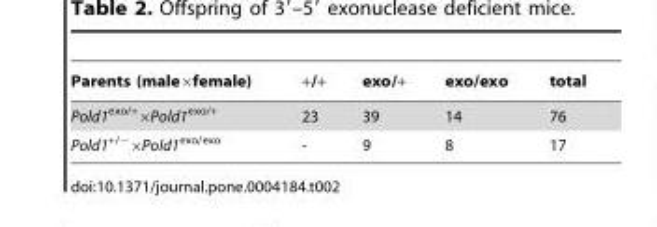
<table><thead><tr><td>Parents (male×female)</td><td>+/+</td><td>exo/+</td><td>exo/exo</td><td>total</td></tr></thead><tbody><tr><td>Pold1<sup>exo/+</sup>×Pold1<sup>exo/+</sup></td><td>23</td><td>39</td><td>14</td><td>76</td></tr><tr><td>Pold1<sup>+/−</sup>×Pold1<sup>exo/exo</sup></td><td>-</td><td>9</td><td>8</td><td>17</td></tr></tbody></table>